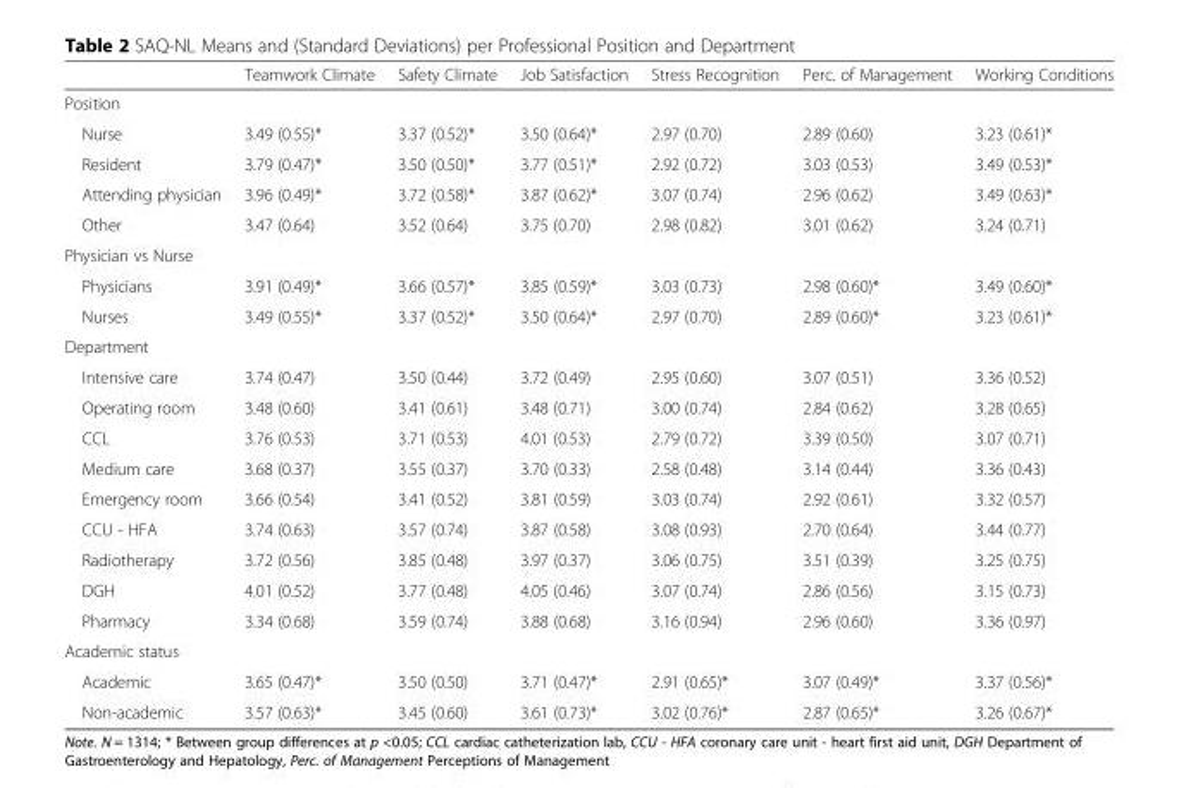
<table><thead><tr><td></td><td>Teamwork Climate</td><td>Safety Climate</td><td>Job Satisfaction</td><td>Stress Recognition</td><td>Perc. of Management</td><td>Working Conditions</td></tr></thead><tbody><tr><td colspan="7">Position</td></tr><tr><td>Nurse</td><td>3.49 (0.55)*</td><td>3.37 (0.52)*</td><td>3.50 (0.64)*</td><td>2.97 (0.70)</td><td>2.89 (0.60)</td><td>3.23 (0.61)*</td></tr><tr><td>Resident</td><td>3.79 (0.47)*</td><td>3.50 (0.50)*</td><td>3.77 (0.51)*</td><td>2.92 (0.72)</td><td>3.03 (0.53)</td><td>3.49 (0.53)*</td></tr><tr><td>Attending physician</td><td>3.96 (0.49)*</td><td>3.72 (0.58)*</td><td>3.87 (0.62)*</td><td>3.07 (0.74)</td><td>2.96 (0.62)</td><td>3.49 (0.63)*</td></tr><tr><td>Other</td><td>3.47 (0.64)</td><td>3.52 (0.64)</td><td>3.75 (0.70)</td><td>2.98 (0.82)</td><td>3.01 (0.62)</td><td>3.24 (0.71)</td></tr><tr><td colspan="7">Physician vs Nurse</td></tr><tr><td>Physicians</td><td>3.91 (0.49)*</td><td>3.66 (0.57)*</td><td>3.85 (0.59)*</td><td>3.03 (0.73)</td><td>2.98 (0.60)*</td><td>3.49 (0.60)*</td></tr><tr><td>Nurses</td><td>3.49 (0.55)*</td><td>3.37 (0.52)*</td><td>3.50 (0.64)*</td><td>2.97 (0.70)</td><td>2.89 (0.60)*</td><td>3.23 (0.61)*</td></tr><tr><td colspan="7">Department</td></tr><tr><td>Intensive care</td><td>3.74 (0.47)</td><td>3.50 (0.44)</td><td>3.72 (0.49)</td><td>2.95 (0.60)</td><td>3.07 (0.51)</td><td>3.36 (0.52)</td></tr><tr><td>Operating room</td><td>3.48 (0.60)</td><td>3.41 (0.61)</td><td>3.48 (0.71)</td><td>3.00 (0.74)</td><td>2.84 (0.62)</td><td>3.28 (0.65)</td></tr><tr><td>CCL</td><td>3.76 (0.53)</td><td>3.71 (0.53)</td><td>4.01 (0.53)</td><td>2.79 (0.72)</td><td>3.39 (0.50)</td><td>3.07 (0.71)</td></tr><tr><td>Medium care</td><td>3.68 (0.37)</td><td>3.55 (0.37)</td><td>3.70 (0.33)</td><td>2.58 (0.48)</td><td>3.14 (0.44)</td><td>3.36 (0.43)</td></tr><tr><td>Emergency room</td><td>3.66 (0.54)</td><td>3.41 (0.52)</td><td>3.81 (0.59)</td><td>3.03 (0.74)</td><td>2.92 (0.61)</td><td>3.32 (0.57)</td></tr><tr><td>CCU - HFA</td><td>3.74 (0.63)</td><td>3.57 (0.74)</td><td>3.87 (0.58)</td><td>3.08 (0.93)</td><td>2.70 (0.64)</td><td>3.44 (0.77)</td></tr><tr><td>Radiotherapy</td><td>3.72 (0.56)</td><td>3.85 (0.48)</td><td>3.97 (0.37)</td><td>3.06 (0.75)</td><td>3.51 (0.39)</td><td>3.25 (0.75)</td></tr><tr><td>DGH</td><td>4.01 (0.52)</td><td>3.77 (0.48)</td><td>4.05 (0.46)</td><td>3.07 (0.74)</td><td>2.86 (0.56)</td><td>3.15 (0.73)</td></tr><tr><td>Pharmacy</td><td>3.34 (0.68)</td><td>3.59 (0.74)</td><td>3.88 (0.68)</td><td>3.16 (0.94)</td><td>2.96 (0.60)</td><td>3.36 (0.97)</td></tr><tr><td colspan="7">Academic status</td></tr><tr><td>Academic</td><td>3.65 (0.47)*</td><td>3.50 (0.50)</td><td>3.71 (0.47)*</td><td>2.91 (0.65)*</td><td>3.07 (0.49)*</td><td>3.37 (0.56)*</td></tr><tr><td>Non-academic</td><td>3.57 (0.63)*</td><td>3.45 (0.60)</td><td>3.61 (0.73)*</td><td>3.02 (0.76)*</td><td>2.87 (0.65)*</td><td>3.26 (0.67)*</td></tr></tbody></table>